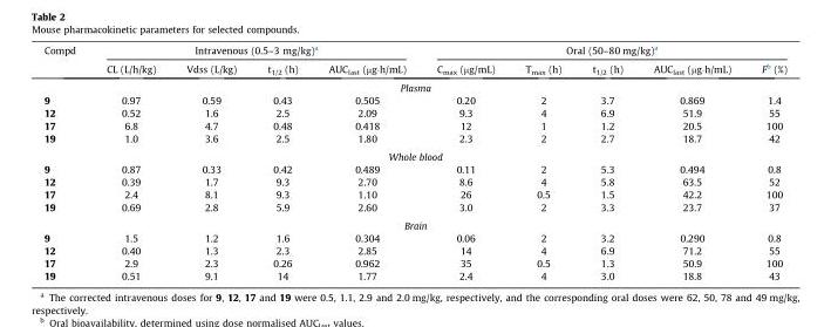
<table><thead><tr><td rowspan="2">Compd</td><td colspan="4">Intravenous (0.5–3 mg/kg)<sup>a</sup></td><td colspan="5">Oral (50–80 mg/kg)<sup>a</sup></td></tr><tr><td>CL (L/h/kg)</td><td>Vdss (L/kg)</td><td>t<sub>1/2</sub> (h)</td><td>AUC<sub>last</sub> (µg⋅h/mL)</td><td>C<sub>max</sub> (µg/mL)</td><td>T<sub>max</sub> (h)</td><td>t<sub>1/2</sub> (h)</td><td>AUC<sub>last</sub> (µg⋅h/mL)</td><td>F<sup>b</sup> (%)</td></tr></thead><tbody><tr><td colspan="10">Plasma</td></tr><tr><td>9</td><td>0.97</td><td>0.59</td><td>0.43</td><td>0.505</td><td>0.20</td><td>2</td><td>3.7</td><td>0.869</td><td>1.4</td></tr><tr><td>12</td><td>0.52</td><td>1.6</td><td>2.5</td><td>2.09</td><td>9.3</td><td>4</td><td>6.9</td><td>51.9</td><td>55</td></tr><tr><td>17</td><td>6.8</td><td>4.7</td><td>0.48</td><td>0.418</td><td>12</td><td>1</td><td>1.2</td><td>20.5</td><td>100</td></tr><tr><td>19</td><td>1.0</td><td>3.6</td><td>2.5</td><td>1.80</td><td>2.3</td><td>2</td><td>2.7</td><td>18.7</td><td>42</td></tr><tr><td colspan="10">Whole blood</td></tr><tr><td>9</td><td>0.87</td><td>0.33</td><td>0.42</td><td>0.489</td><td>0.11</td><td>2</td><td>5.3</td><td>0.494</td><td>0.8</td></tr><tr><td>12</td><td>0.39</td><td>1.7</td><td>9.3</td><td>2.70</td><td>8.6</td><td>4</td><td>5.8</td><td>63.5</td><td>52</td></tr><tr><td>17</td><td>2.4</td><td>8.1</td><td>9.3</td><td>1.10</td><td>26</td><td>0.5</td><td>1.5</td><td>42.2</td><td>100</td></tr><tr><td>19</td><td>0.69</td><td>2.8</td><td>5.9</td><td>2.60</td><td>3.0</td><td>2</td><td>3.3</td><td>23.7</td><td>37</td></tr><tr><td colspan="10">Brain</td></tr><tr><td>9</td><td>1.5</td><td>1.2</td><td>1.6</td><td>0.304</td><td>0.06</td><td>2</td><td>3.2</td><td>0.290</td><td>0.8</td></tr><tr><td>12</td><td>0.40</td><td>1.3</td><td>2.3</td><td>2.85</td><td>14</td><td>4</td><td>6.9</td><td>71.2</td><td>55</td></tr><tr><td>17</td><td>2.9</td><td>2.3</td><td>0.26</td><td>0.962</td><td>35</td><td>0.5</td><td>1.3</td><td>50.9</td><td>100</td></tr><tr><td>19</td><td>0.51</td><td>9.1</td><td>14</td><td>1.77</td><td>2.4</td><td>4</td><td>3.0</td><td>18.8</td><td>43</td></tr></tbody></table>